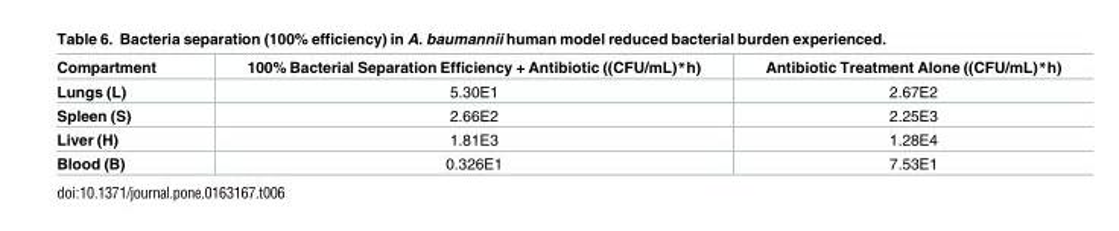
<table><thead><tr><td>Compartment</td><td>100% Bacterial Separation Efficiency + Antibiotic ((CFU/mL)*h)</td><td>Antibiotic Treatment Alone ((CFU/mL)*h)</td></tr></thead><tbody><tr><td>Lungs (L)</td><td>5.30E1</td><td>2.67E2</td></tr><tr><td>Spleen (S)</td><td>2.66E2</td><td>2.25E3</td></tr><tr><td>Liver (H)</td><td>1.81E3</td><td>1.28E4</td></tr><tr><td>Blood (B)</td><td>0.326E1</td><td>7.53E1</td></tr></tbody></table>